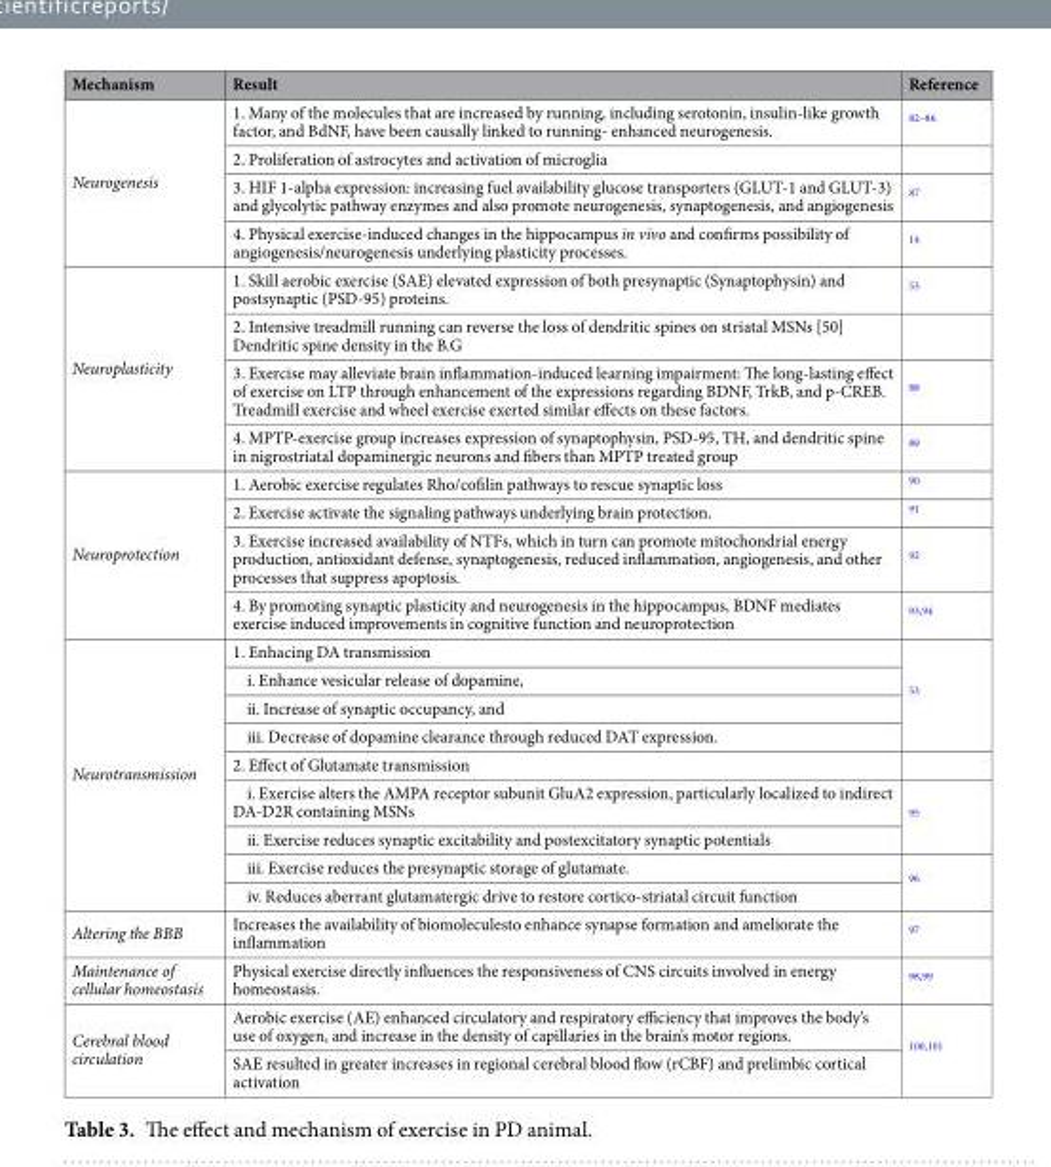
<table><thead><tr><td>Mechanism</td><td>Result</td><td>Reference</td></tr></thead><tbody><tr><td rowspan="4">Neurogenesis</td><td>1. Many of the molecules that are increased by running, including serotonin, insulin-like growth factor, and BdNF, have been causally linked to running- enhanced neurogenesis.</td><td><sup>82–86</sup></td></tr><tr><td>2. Proliferation of astrocytes and activation of microglia</td><td></td></tr><tr><td>3. HIF 1-alpha expression: increasing fuel availability glucose transporters (GLUT-1 and GLUT-3) and glycolytic pathway enzymes and also promote neurogenesis, synaptogenesis, and angiogenesis</td><td><sup>87</sup></td></tr><tr><td>4. Physical exercise-induced changes in the hippocampus in vivo and confirms possibility of angiogenesis/neurogenesis underlying plasticity processes.</td><td><sup>14</sup></td></tr><tr><td rowspan="4">Neuroplasticity</td><td>1. Skill aerobic exercise (SAE) elevated expression of both presynaptic (Synaptophysin) and postsynaptic (PSD-95) proteins.</td><td><sup>53</sup></td></tr><tr><td>2. Intensive treadmill running can reverse the loss of dendritic spines on striatal MSNs [50] Dendritic spine density in the B.G</td><td></td></tr><tr><td>3. Exercise may alleviate brain inflammation-induced learning impairment: The long-lasting effect of exercise on LTP through enhancement of the expressions regarding BDNF, TrkB, and p-CREB. Treadmill exercise and wheel exercise exerted similar effects on these factors.</td><td><sup>88</sup></td></tr><tr><td>4. MPTP-exercise group increases expression of synaptophysin, PSD-95, TH, and dendritic spine in nigrostriatal dopaminergic neurons and fibers than MPTP treated group</td><td><sup>89</sup></td></tr><tr><td rowspan="4">Neuroprotection</td><td>1. Aerobic exercise regulates Rho/cofilin pathways to rescue synaptic loss</td><td><sup>90</sup></td></tr><tr><td>2. Exercise activate the signaling pathways underlying brain protection.</td><td><sup>91</sup></td></tr><tr><td>3. Exercise increased availability of NTFs, which in turn can promote mitochondrial energy production, antioxidant defense, synaptogenesis, reduced inflammation, angiogenesis, and other processes that suppress apoptosis.</td><td><sup>92</sup></td></tr><tr><td>4. By promoting synaptic plasticity and neurogenesis in the hippocampus, BDNF mediates exercise induced improvements in cognitive function and neuroprotection</td><td><sup>93,94</sup></td></tr><tr><td rowspan="9">Neurotransmission</td><td>1. Enhacing DA transmission</td><td rowspan="4"><sup>53</sup></td></tr><tr><td>i. Enhance vesicular release of dopamine,</td></tr><tr><td>ii. Increase of synaptic occupancy, and</td></tr><tr><td>iii. Decrease of dopamine clearance through reduced DAT expression.</td></tr><tr><td>2. Effect of Glutamate transmission</td><td></td></tr><tr><td>i. Exercise alters the AMPA receptor subunit GluA2 expression, particularly localized to indirect DA-D2R containing MSNs</td><td rowspan="2"><sup>95</sup></td></tr><tr><td>ii. Exercise reduces synaptic excitability and postexcitatory synaptic potentials</td></tr><tr><td>iii. Exercise reduces the presynaptic storage of glutamate.</td><td rowspan="2"><sup>96</sup></td></tr><tr><td>iv. Reduces aberrant glutamatergic drive to restore cortico-striatal circuit function</td></tr><tr><td>Altering the BBB</td><td>Increases the availability of biomoleculesto enhance synapse formation and ameliorate the inflammation</td><td><sup>97</sup></td></tr><tr><td>Maintenance of cellular homeostasis</td><td>Physical exercise directly influences the responsiveness of CNS circuits involved in energy homeostasis.</td><td><sup>98,99</sup></td></tr><tr><td rowspan="2">Cerebral blood circulation</td><td>Aerobic exercise (AE) enhanced circulatory and respiratory efficiency that improves the body’s use of oxygen, and increase in the density of capillaries in the brain’s motor regions.</td><td rowspan="2"><sup>100,101</sup></td></tr><tr><td>SAE resulted in greater increases in regional cerebral blood flow (rCBF) and prelimbic cortical activation</td></tr></tbody></table>